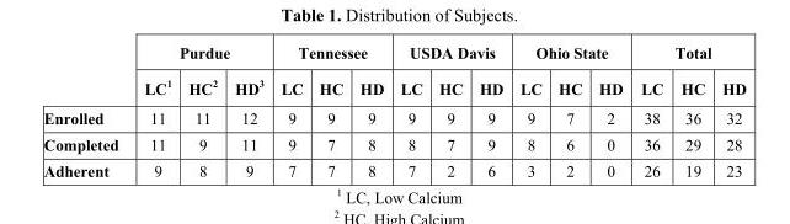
<table><thead><tr><td rowspan="2"></td><td colspan="3">Purdue</td><td colspan="3">Tennessee</td><td colspan="3">USDA Davis</td><td colspan="3">Ohio State</td><td colspan="3">Total</td></tr><tr><td>LC<sup>1</sup></td><td>HC<sup>2</sup></td><td>HD<sup>3</sup></td><td>LC</td><td>HC</td><td>HD</td><td>LC</td><td>HC</td><td>HD</td><td>LC</td><td>HC</td><td>HD</td><td>LC</td><td>HC</td><td>HD</td></tr></thead><tbody><tr><td>Enrolled</td><td>11</td><td>11</td><td>12</td><td>9</td><td>9</td><td>9</td><td>9</td><td>9</td><td>9</td><td>9</td><td>7</td><td>2</td><td>38</td><td>36</td><td>32</td></tr><tr><td>Completed</td><td>11</td><td>9</td><td>11</td><td>9</td><td>7</td><td>8</td><td>8</td><td>7</td><td>9</td><td>8</td><td>6</td><td>0</td><td>36</td><td>29</td><td>28</td></tr><tr><td>Adherent</td><td>9</td><td>8</td><td>9</td><td>7</td><td>7</td><td>8</td><td>7</td><td>2</td><td>6</td><td>3</td><td>2</td><td>0</td><td>26</td><td>19</td><td>23</td></tr></tbody></table>